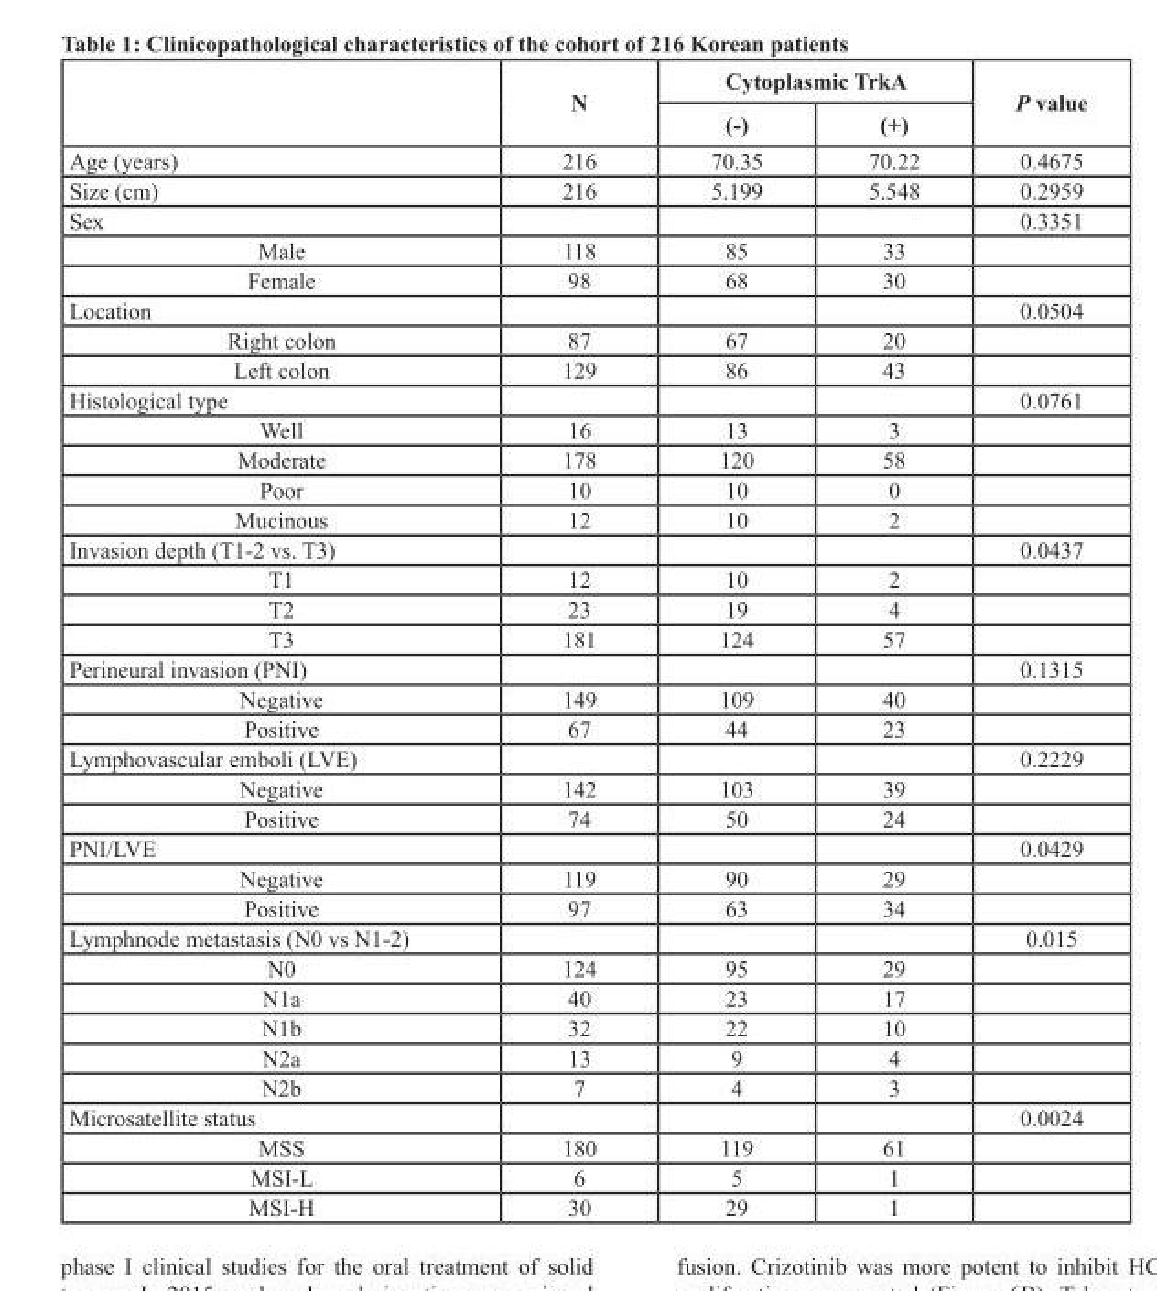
<table><thead><tr><td rowspan="2"></td><td rowspan="2">N</td><td colspan="2">Cytoplasmic TrkA</td><td rowspan="2">P value</td></tr><tr><td>(-)</td><td>(+)</td></tr></thead><tbody><tr><td>Age (years)</td><td>216</td><td>70.35</td><td>70.22</td><td>0.4675</td></tr><tr><td>Size (cm)</td><td>216</td><td>5.199</td><td>5.548</td><td>0.2959</td></tr><tr><td>Sex</td><td></td><td></td><td></td><td>0.3351</td></tr><tr><td>Male</td><td>118</td><td>85</td><td>33</td><td></td></tr><tr><td>Female</td><td>98</td><td>68</td><td>30</td><td></td></tr><tr><td>Location</td><td></td><td></td><td></td><td>0.0504</td></tr><tr><td>Right colon</td><td>87</td><td>67</td><td>20</td><td></td></tr><tr><td>Left colon</td><td>129</td><td>86</td><td>43</td><td></td></tr><tr><td>Histological type</td><td></td><td></td><td></td><td>0.0761</td></tr><tr><td>Well</td><td>16</td><td>13</td><td>3</td><td></td></tr><tr><td>Moderate</td><td>178</td><td>120</td><td>58</td><td></td></tr><tr><td>Poor</td><td>10</td><td>10</td><td>0</td><td></td></tr><tr><td>Mucinous</td><td>12</td><td>10</td><td>2</td><td></td></tr><tr><td>Invasion depth (T1-2 vs. T3)</td><td></td><td></td><td></td><td>0.0437</td></tr><tr><td>T1</td><td>12</td><td>10</td><td>2</td><td></td></tr><tr><td>T2</td><td>23</td><td>19</td><td>4</td><td></td></tr><tr><td>T3</td><td>181</td><td>124</td><td>57</td><td></td></tr><tr><td>Perineural invasion (PNI)</td><td></td><td></td><td></td><td>0.1315</td></tr><tr><td>Negative</td><td>149</td><td>109</td><td>40</td><td></td></tr><tr><td>Positive</td><td>67</td><td>44</td><td>23</td><td></td></tr><tr><td>Lymphovascular emboli (LVE)</td><td></td><td></td><td></td><td>0.2229</td></tr><tr><td>Negative</td><td>142</td><td>103</td><td>39</td><td></td></tr><tr><td>Positive</td><td>74</td><td>50</td><td>24</td><td></td></tr><tr><td>PNI/LVE</td><td></td><td></td><td></td><td>0.0429</td></tr><tr><td>Negative</td><td>119</td><td>90</td><td>29</td><td></td></tr><tr><td>Positive</td><td>97</td><td>63</td><td>34</td><td></td></tr><tr><td>Lymphnode metastasis (N0 vs N1-2)</td><td></td><td></td><td></td><td>0.015</td></tr><tr><td>N0</td><td>124</td><td>95</td><td>29</td><td></td></tr><tr><td>N1a</td><td>40</td><td>23</td><td>17</td><td></td></tr><tr><td>N1b</td><td>32</td><td>22</td><td>10</td><td></td></tr><tr><td>N2a</td><td>13</td><td>9</td><td>4</td><td></td></tr><tr><td>N2b</td><td>7</td><td>4</td><td>3</td><td></td></tr><tr><td>Microsatellite status</td><td></td><td></td><td></td><td>0.0024</td></tr><tr><td>MSS</td><td>180</td><td>119</td><td>61</td><td></td></tr><tr><td>MSI-L</td><td>6</td><td>5</td><td>1</td><td></td></tr><tr><td>MSI-H</td><td>30</td><td>29</td><td>1</td><td></td></tr></tbody></table>